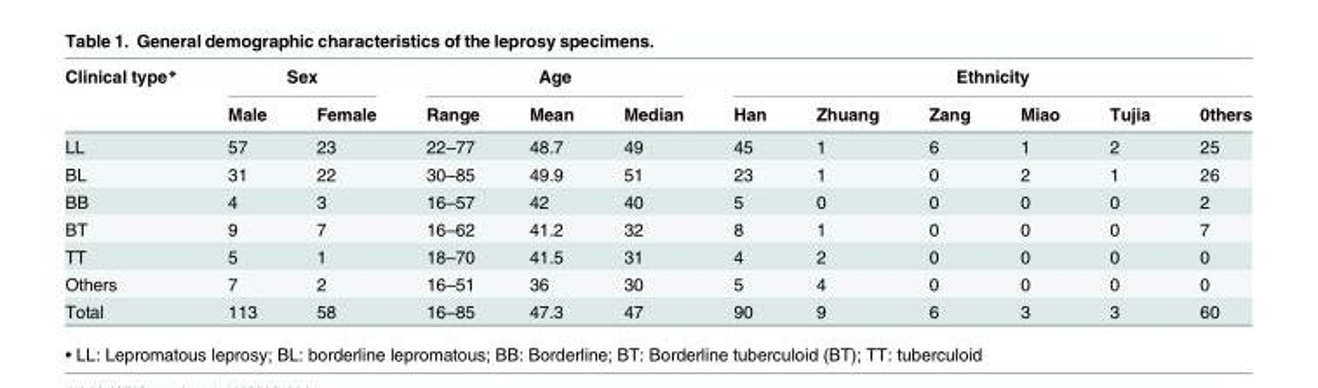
<table><thead><tr><td rowspan="2">Clinical type*</td><td colspan="2">Sex</td><td colspan="3">Age</td><td colspan="6">Ethnicity</td></tr><tr><td>Male</td><td>Female</td><td>Range</td><td>Mean</td><td>Median</td><td>Han</td><td>Zhuang</td><td>Zang</td><td>Miao</td><td>Tujia</td><td>0thers</td></tr></thead><tbody><tr><td>LL</td><td>57</td><td>23</td><td>22–77</td><td>48.7</td><td>49</td><td>45</td><td>1</td><td>6</td><td>1</td><td>2</td><td>25</td></tr><tr><td>BL</td><td>31</td><td>22</td><td>30–85</td><td>49.9</td><td>51</td><td>23</td><td>1</td><td>0</td><td>2</td><td>1</td><td>26</td></tr><tr><td>BB</td><td>4</td><td>3</td><td>16–57</td><td>42</td><td>40</td><td>5</td><td>0</td><td>0</td><td>0</td><td>0</td><td>2</td></tr><tr><td>BT</td><td>9</td><td>7</td><td>16–62</td><td>41.2</td><td>32</td><td>8</td><td>1</td><td>0</td><td>0</td><td>0</td><td>7</td></tr><tr><td>TT</td><td>5</td><td>1</td><td>18–70</td><td>41.5</td><td>31</td><td>4</td><td>2</td><td>0</td><td>0</td><td>0</td><td>0</td></tr><tr><td>Others</td><td>7</td><td>2</td><td>16–51</td><td>36</td><td>30</td><td>5</td><td>4</td><td>0</td><td>0</td><td>0</td><td>0</td></tr><tr><td>Total</td><td>113</td><td>58</td><td>16–85</td><td>47.3</td><td>47</td><td>90</td><td>9</td><td>6</td><td>3</td><td>3</td><td>60</td></tr></tbody></table>